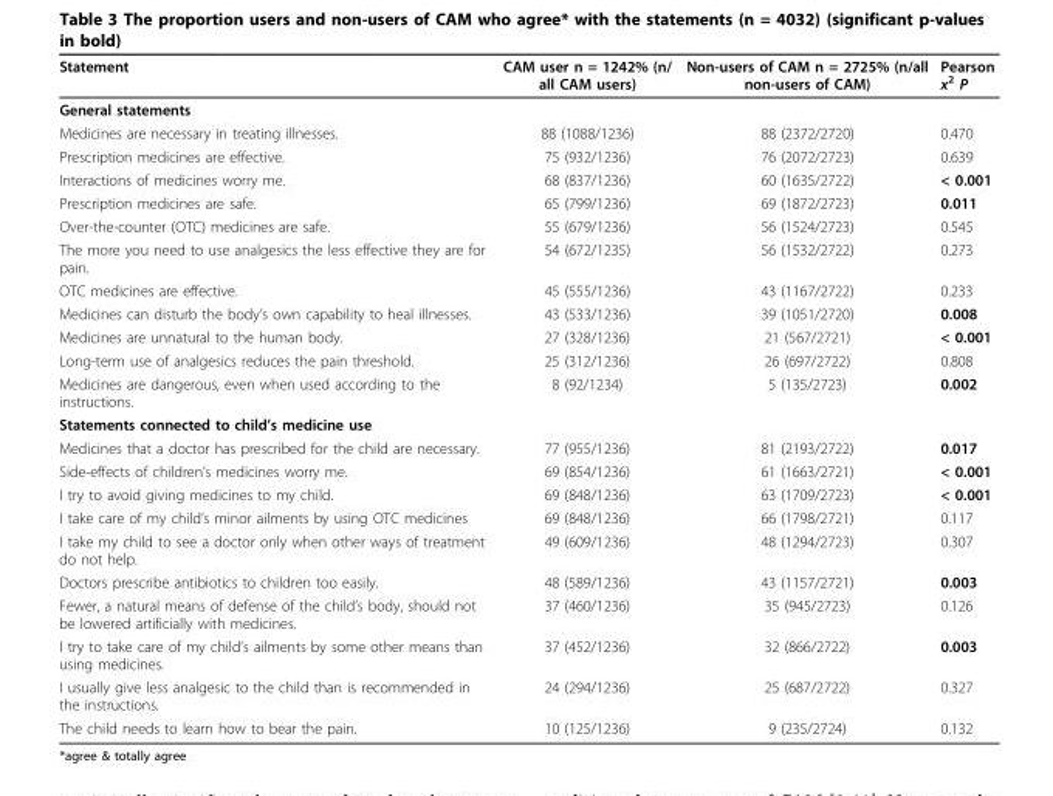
<table><thead><tr><td>Statement</td><td>CAM user n = 1242% (n/ all CAM users)</td><td>Non-users of CAM n = 2725% (n/all non-users of CAM)</td><td>Pearson x<sup>2</sup> P</td></tr></thead><tbody><tr><td colspan="4">General statements</td></tr><tr><td>Medicines are necessary in treating illnesses.</td><td>88 (1088/1236)</td><td>88 (2372/2720)</td><td>0.470</td></tr><tr><td>Prescription medicines are effective.</td><td>75 (932/1236)</td><td>76 (2072/2723)</td><td>0.639</td></tr><tr><td>Interactions of medicines worry me.</td><td>68 (837/1236)</td><td>60 (1635/2722)</td><td>&lt; 0.001</td></tr><tr><td>Prescription medicines are safe.</td><td>65 (799/1236)</td><td>69 (1872/2723)</td><td>0.011</td></tr><tr><td>Over-the-counter (OTC) medicines are safe.</td><td>55 (679/1236)</td><td>56 (1524/2723)</td><td>0.545</td></tr><tr><td>The more you need to use analgesics the less effective they are for pain.</td><td>54 (672/1235)</td><td>56 (1532/2722)</td><td>0.273</td></tr><tr><td>OTC medicines are effective.</td><td>45 (555/1236)</td><td>43 (1167/2722)</td><td>0.233</td></tr><tr><td>Medicines can disturb the body’s own capability to heal illnesses.</td><td>43 (533/1236)</td><td>39 (1051/2720)</td><td>0.008</td></tr><tr><td>Medicines are unnatural to the human body.</td><td>27 (328/1236)</td><td>21 (567/2721)</td><td>&lt; 0.001</td></tr><tr><td>Long-term use of analgesics reduces the pain threshold.</td><td>25 (312/1236)</td><td>26 (697/2722)</td><td>0.808</td></tr><tr><td>Medicines are dangerous, even when used according to the instructions.</td><td>8 (92/1234)</td><td>5 (135/2723)</td><td>0.002</td></tr><tr><td colspan="4">Statements connected to child’s medicine use</td></tr><tr><td>Medicines that a doctor has prescribed for the child are necessary.</td><td>77 (955/1236)</td><td>81 (2193/2722)</td><td>0.017</td></tr><tr><td>Side-effects of children’s medicines worry me.</td><td>69 (854/1236)</td><td>61 (1663/2721)</td><td>&lt; 0.001</td></tr><tr><td>I try to avoid giving medicines to my child.</td><td>69 (848/1236)</td><td>63 (1709/2723)</td><td>&lt; 0.001</td></tr><tr><td>I take care of my child’s minor ailments by using OTC medicines</td><td>69 (848/1236)</td><td>66 (1798/2721)</td><td>0.117</td></tr><tr><td>I take my child to see a doctor only when other ways of treatment do not help.</td><td>49 (609/1236)</td><td>48 (1294/2723)</td><td>0.307</td></tr><tr><td>Doctors prescribe antibiotics to children too easily.</td><td>48 (589/1236)</td><td>43 (1157/2721)</td><td>0.003</td></tr><tr><td>Fewer, a natural means of defense of the child’s body, should not be lowered artificially with medicines.</td><td>37 (460/1236)</td><td>35 (945/2723)</td><td>0.126</td></tr><tr><td>I try to take care of my child’s ailments by some other means than using medicines.</td><td>37 (452/1236)</td><td>32 (866/2722)</td><td>0.003</td></tr><tr><td>I usually give less analgesic to the child than is recommended in the instructions.</td><td>24 (294/1236)</td><td>25 (687/2722)</td><td>0.327</td></tr><tr><td>The child needs to learn how to bear the pain.</td><td>10 (125/1236)</td><td>9 (235/2724)</td><td>0.132</td></tr></tbody></table>